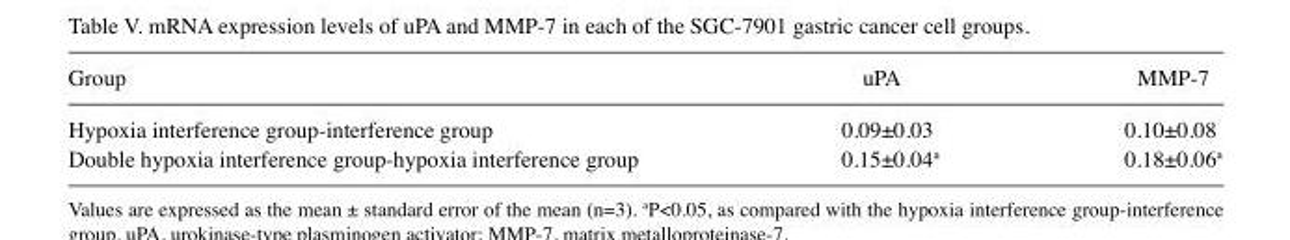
<table><thead><tr><td>Group</td><td>uPA</td><td>MMP-7</td></tr></thead><tbody><tr><td>Hypoxia interference group-interference group</td><td>0.09±0.03</td><td>0.10±0.08</td></tr><tr><td>Double hypoxia interference group-hypoxia interference group</td><td>0.15±0.04<sup>a</sup></td><td>0.18±0.06<sup>a</sup></td></tr></tbody></table>